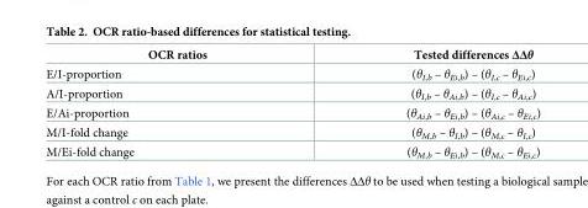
<table><thead><tr><td>OCR ratios</td><td>Tested differences ΔΔθ</td></tr></thead><tbody><tr><td>E/I-proportion</td><td>(θ<sub>I,b</sub> – θ<sub>Ei,b</sub>) – (θ<sub>I,c</sub> – θ<sub>Ei,c</sub>)</td></tr><tr><td>A/I-proportion</td><td>(θ<sub>I,b</sub> – θ<sub>Ai,b</sub>) – (θ<sub>I,c</sub> – θ<sub>Ai,c</sub>)</td></tr><tr><td>E/Ai-proportion</td><td>(θ<sub>Ai,b</sub> – θ<sub>Ei,b</sub>) – (θ<sub>Ai,c</sub> – θ<sub>Ei,c</sub>)</td></tr><tr><td>M/I-fold change</td><td>(θ<sub>M,b</sub> – θ<sub>I,b</sub>) – (θ<sub>M,c</sub> – θ<sub>I,c</sub>)</td></tr><tr><td>M/Ei-fold change</td><td>(θ<sub>M,b</sub> – θ<sub>Ei,b</sub>) – (θ<sub>M,c</sub> – θ<sub>Ei,c</sub>)</td></tr></tbody></table>